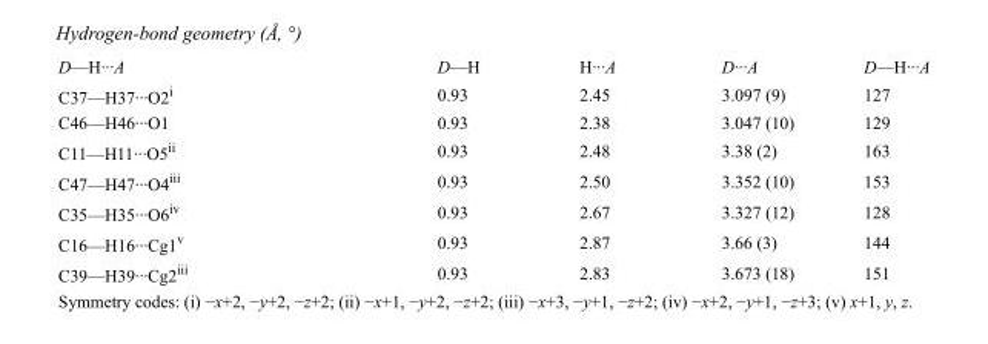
<table><tbody><tr><td>D—H···A</td><td>D—H</td><td>H···A</td><td>D···A</td><td>D—H···A</td></tr><tr><td>C37—H37···O2<sup>i</sup></td><td>0.93</td><td>2.45</td><td>3.097 (9)</td><td>127</td></tr><tr><td>C46—H46···O1</td><td>0.93</td><td>2.38</td><td>3.047 (10)</td><td>129</td></tr><tr><td>C11—H11···O5<sup>ii</sup></td><td>0.93</td><td>2.48</td><td>3.38 (2)</td><td>163</td></tr><tr><td>C47—H47···O4<sup>iii</sup></td><td>0.93</td><td>2.50</td><td>3.352 (10)</td><td>153</td></tr><tr><td>C35—H35···O6<sup>iv</sup></td><td>0.93</td><td>2.67</td><td>3.327 (12)</td><td>128</td></tr><tr><td>C16—H16···Cg1<sup>v</sup></td><td>0.93</td><td>2.87</td><td>3.66 (3)</td><td>144</td></tr><tr><td>C39—H39···Cg2<sup>iii</sup></td><td>0.93</td><td>2.83</td><td>3.673 (18)</td><td>151</td></tr></tbody></table>